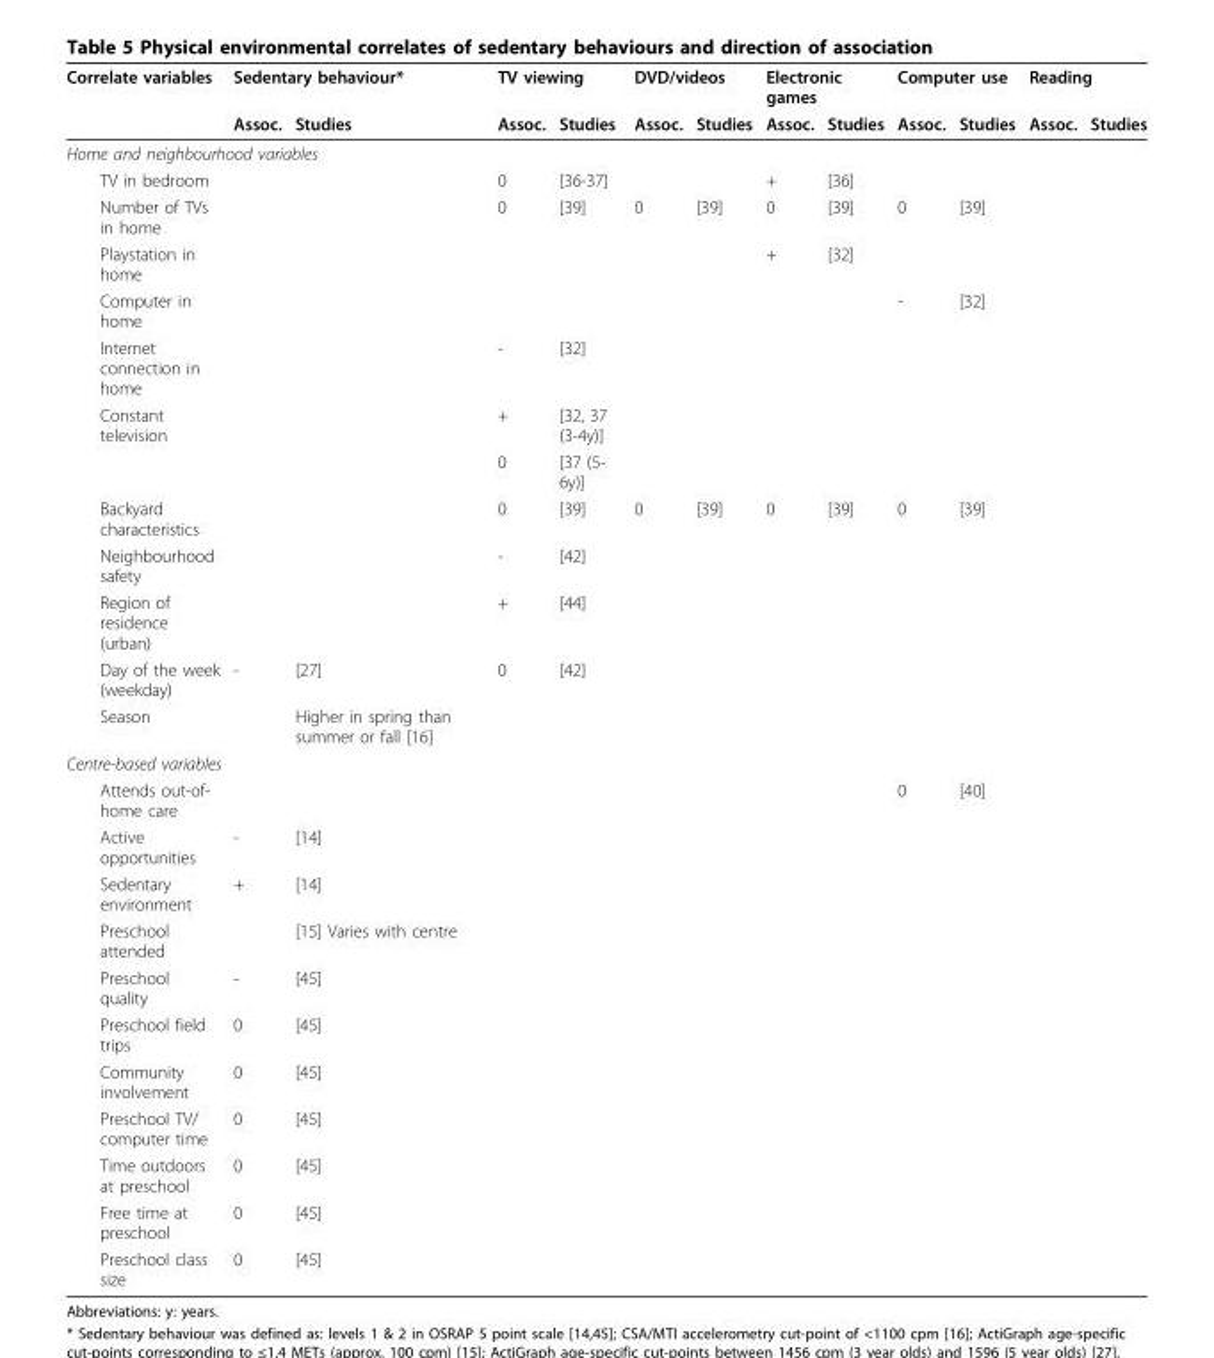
<table><thead><tr><td rowspan="2">Correlate variables</td><td colspan="2">Sedentary behaviour*</td><td colspan="2">TV viewing</td><td colspan="2">DVD/videos</td><td colspan="2">Electronic games</td><td colspan="2">Computer use</td><td colspan="2">Reading</td></tr><tr><td>Assoc.</td><td>Studies</td><td>Assoc.</td><td>Studies</td><td>Assoc.</td><td>Studies</td><td>Assoc.</td><td>Studies</td><td>Assoc.</td><td>Studies</td><td>Assoc.</td><td>Studies</td></tr></thead><tbody><tr><td colspan="13">Home and neighbourhood variables</td></tr><tr><td>TV in bedroom</td><td></td><td></td><td>0</td><td>[36-37]</td><td></td><td></td><td>+</td><td>[36]</td><td></td><td></td><td></td><td></td></tr><tr><td>Number of TVs in home</td><td></td><td></td><td>0</td><td>[39]</td><td>0</td><td>[39]</td><td>0</td><td>[39]</td><td>0</td><td>[39]</td><td></td><td></td></tr><tr><td>Playstation in home</td><td></td><td></td><td></td><td></td><td></td><td></td><td>+</td><td>[32]</td><td></td><td></td><td></td><td></td></tr><tr><td>Computer in home</td><td></td><td></td><td></td><td></td><td></td><td></td><td></td><td></td><td>-</td><td>[32]</td><td></td><td></td></tr><tr><td>Internet connection in home</td><td></td><td></td><td>-</td><td>[32]</td><td></td><td></td><td></td><td></td><td></td><td></td><td></td><td></td></tr><tr><td rowspan="2">Constant television</td><td></td><td></td><td>+</td><td>[32, 37 (3-4y)]</td><td></td><td></td><td></td><td></td><td></td><td></td><td></td><td></td></tr><tr><td></td><td></td><td>0</td><td>[37 (5- 6y)]</td><td></td><td></td><td></td><td></td><td></td><td></td><td></td><td></td></tr><tr><td>Backyard characteristics</td><td></td><td></td><td>0</td><td>[39]</td><td>0</td><td>[39]</td><td>0</td><td>[39]</td><td>0</td><td>[39]</td><td></td><td></td></tr><tr><td>Neighbourhood safety</td><td></td><td></td><td>-</td><td>[42]</td><td></td><td></td><td></td><td></td><td></td><td></td><td></td><td></td></tr><tr><td>Region of residence (urban)</td><td></td><td></td><td>+</td><td>[44]</td><td></td><td></td><td></td><td></td><td></td><td></td><td></td><td></td></tr><tr><td>Day of the week (weekday)</td><td>-</td><td>[27]</td><td>0</td><td>[42]</td><td></td><td></td><td></td><td></td><td></td><td></td><td></td><td></td></tr><tr><td>Season</td><td></td><td>Higher in spring than summer or fall [16]</td><td></td><td></td><td></td><td></td><td></td><td></td><td></td><td></td><td></td><td></td></tr><tr><td colspan="13">Centre-based variables</td></tr><tr><td>Attends out-of- home care</td><td></td><td></td><td></td><td></td><td></td><td></td><td></td><td></td><td>0</td><td>[40]</td><td></td><td></td></tr><tr><td>Active opportunities</td><td>-</td><td>[14]</td><td></td><td></td><td></td><td></td><td></td><td></td><td></td><td></td><td></td><td></td></tr><tr><td>Sedentary environment</td><td>+</td><td>[14]</td><td></td><td></td><td></td><td></td><td></td><td></td><td></td><td></td><td></td><td></td></tr><tr><td>Preschool attended</td><td></td><td>[15] Varies with centre</td><td></td><td></td><td></td><td></td><td></td><td></td><td></td><td></td><td></td><td></td></tr><tr><td>Preschool quality</td><td>-</td><td>[45]</td><td></td><td></td><td></td><td></td><td></td><td></td><td></td><td></td><td></td><td></td></tr><tr><td>Preschool field trips</td><td>0</td><td>[45]</td><td></td><td></td><td></td><td></td><td></td><td></td><td></td><td></td><td></td><td></td></tr><tr><td>Community involvement</td><td>0</td><td>[45]</td><td></td><td></td><td></td><td></td><td></td><td></td><td></td><td></td><td></td><td></td></tr><tr><td>Preschool TV/ computer time</td><td>0</td><td>[45]</td><td></td><td></td><td></td><td></td><td></td><td></td><td></td><td></td><td></td><td></td></tr><tr><td>Time outdoors at preschool</td><td>0</td><td>[45]</td><td></td><td></td><td></td><td></td><td></td><td></td><td></td><td></td><td></td><td></td></tr><tr><td>Free time at preschool</td><td>0</td><td>[45]</td><td></td><td></td><td></td><td></td><td></td><td></td><td></td><td></td><td></td><td></td></tr><tr><td>Preschool class size</td><td>0</td><td>[45]</td><td></td><td></td><td></td><td></td><td></td><td></td><td></td><td></td><td></td><td></td></tr></tbody></table>